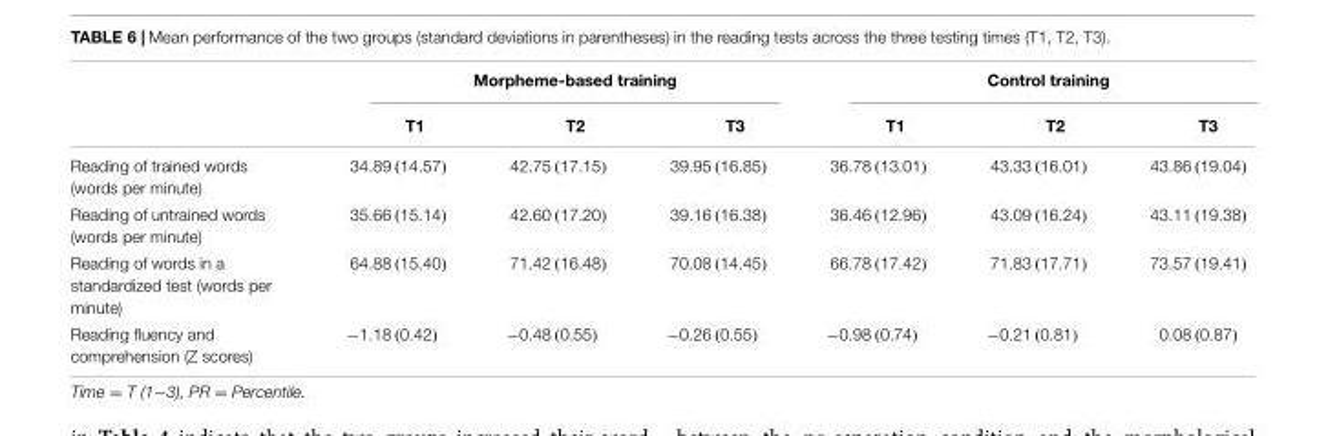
<table><thead><tr><td rowspan="2"></td><td colspan="3">Morpheme-based training</td><td colspan="3">Control training</td></tr><tr><td>T1</td><td>T2</td><td>T3</td><td>T1</td><td>T2</td><td>T3</td></tr></thead><tbody><tr><td>Reading of trained words (words per minute)</td><td>34.89 (14.57)</td><td>42.75 (17.15)</td><td>39.95 (16.85)</td><td>36.78 (13.01)</td><td>43.33 (16.01)</td><td>43.86 (19.04)</td></tr><tr><td>Reading of untrained words (words per minute)</td><td>35.66 (15.14)</td><td>42.60 (17.20)</td><td>39.16 (16.38)</td><td>36.46 (12.96)</td><td>43.09 (16.24)</td><td>43.11 (19.38)</td></tr><tr><td>Reading of words in a standardized test (words per minute)</td><td>64.88 (15.40)</td><td>71.42 (16.48)</td><td>70.08 (14.45)</td><td>66.78 (17.42)</td><td>71.83 (17.71)</td><td>73.57 (19.41)</td></tr><tr><td>Reading fluency and comprehension (Z scores)</td><td>−1.18 (0.42)</td><td>−0.48 (0.55)</td><td>−0.26 (0.55)</td><td>−0.98 (0.74)</td><td>−0.21 (0.81)</td><td>0.08 (0.87)</td></tr></tbody></table>